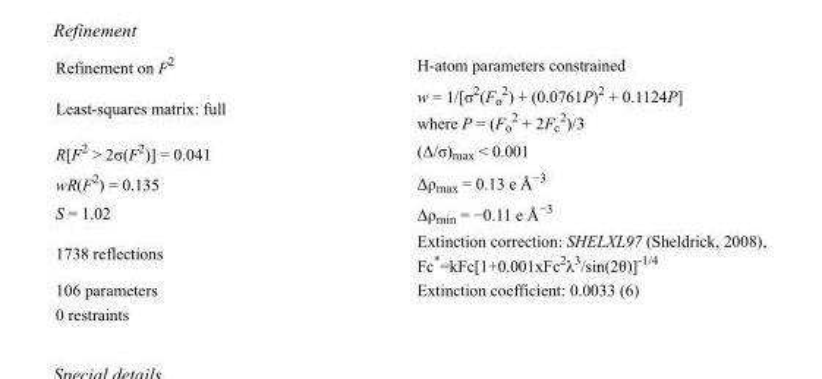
<table><tbody><tr><td>Refinement on F<sup>2</sup></td><td>H-atom parameters constrained</td></tr><tr><td>Least-squares matrix: full</td><td>w = 1/[σ<sup>2</sup>(F<sub>o</sub> <sup>2</sup>) + (0.0761P)<sup>2</sup> + 0.1124P] where P = (F<sub>o</sub> <sup>2</sup> + 2F<sub>c</sub> <sup>2</sup>)/3</td></tr><tr><td>R[F<sup>2</sup> &gt; 2σ(F<sup>2</sup>)] = 0.041</td><td>(Δ/σ)<sub>max</sub> &lt; 0.001</td></tr><tr><td>wR(F<sup>2</sup>) = 0.135</td><td>Δρ<sub>max</sub> = 0.13 e Å<sup>−3</sup></td></tr><tr><td>S = 1.02</td><td>Δρ<sub>min</sub> = −0.11 e Å<sup>−3</sup></td></tr><tr><td>1738 reflections</td><td>Extinction correction: SHELXL97 (Sheldrick, 2008), Fc*=kFc[1+0.001xFc<sup>2</sup>λ<sup>3</sup>/sin(2θ)]<sup>-1/4</sup></td></tr><tr><td>106 parameters</td><td>Extinction coefficient: 0.0033 (6)</td></tr><tr><td>0 restraints</td><td></td></tr></tbody></table>